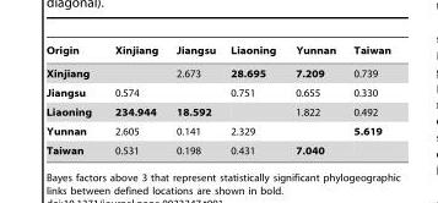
<table><thead><tr><td>Origin</td><td>Xinjiang</td><td>Jiangsu</td><td>Liaoning</td><td>Yunnan</td><td>Taiwan</td></tr></thead><tbody><tr><td>Xinjiang</td><td></td><td>2.673</td><td>28.695</td><td>7.209</td><td>0.739</td></tr><tr><td>Jiangsu</td><td>0.574</td><td></td><td>0.751</td><td>0.655</td><td>0.330</td></tr><tr><td>Liaoning</td><td>234.944</td><td>18.592</td><td></td><td>1.822</td><td>0.492</td></tr><tr><td>Yunnan</td><td>2.605</td><td>0.141</td><td>2.329</td><td></td><td>5.619</td></tr><tr><td>Taiwan</td><td>0.531</td><td>0.198</td><td>0.431</td><td>7.040</td><td></td></tr></tbody></table>